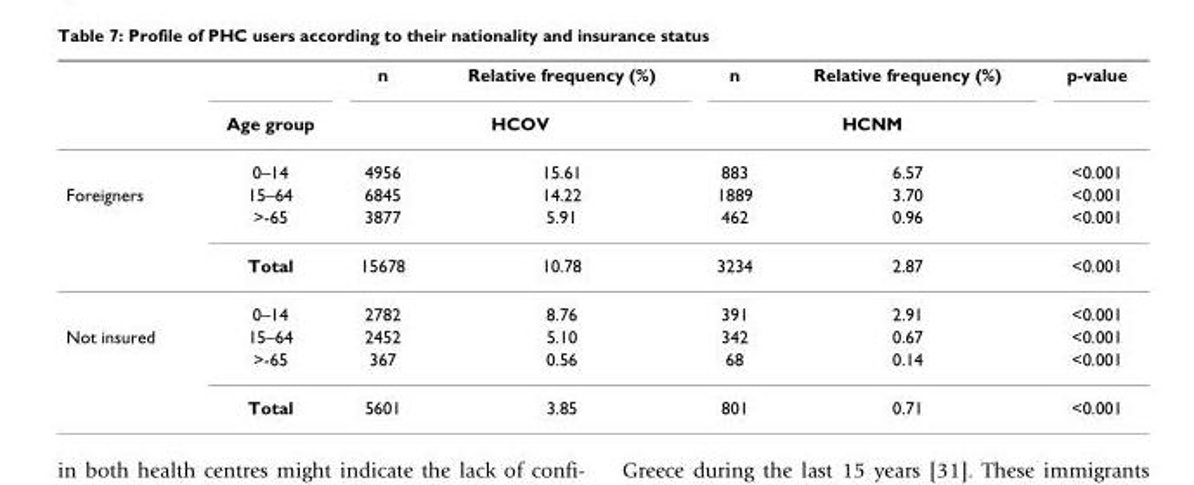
<table><thead><tr><td rowspan="2"></td><td rowspan="2">Age group</td><td>n</td><td>Relative frequency (%)</td><td>n</td><td>Relative frequency (%)</td><td rowspan="2">p-value</td></tr><tr><td colspan="2">HCOV</td><td colspan="2">HCNM</td></tr></thead><tbody><tr><td></td><td>0–14</td><td>4956</td><td>15.61</td><td>883</td><td>6.57</td><td>&lt;0.001</td></tr><tr><td rowspan="4">Foreigners</td><td>15–64</td><td>6845</td><td>14.22</td><td>1889</td><td>3.70</td><td>&lt;0.001</td></tr><tr><td>&gt;-65</td><td>3877</td><td>5.91</td><td>462</td><td>0.96</td><td>&lt;0.001</td></tr><tr><td>Total</td><td>15678</td><td>10.78</td><td>3234</td><td>2.87</td><td>&lt;0.001</td></tr><tr><td>0–14</td><td>2782</td><td>8.76</td><td>391</td><td>2.91</td><td>&lt;0.001</td></tr><tr><td rowspan="3">Not insured</td><td>15–64</td><td>2452</td><td>5.10</td><td>342</td><td>0.67</td><td>&lt;0.001</td></tr><tr><td>&gt;-65</td><td>367</td><td>0.56</td><td>68</td><td>0.14</td><td>&lt;0.001</td></tr><tr><td>Total</td><td>5601</td><td>3.85</td><td>801</td><td>0.71</td><td>&lt;0.001</td></tr></tbody></table>